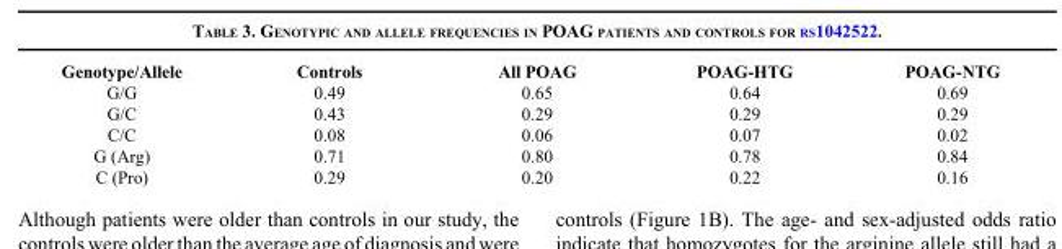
<table><thead><tr><td>Genotype/Allele</td><td>Controls</td><td>All POAG</td><td>POAG-HTG</td><td>POAG-NTG</td></tr></thead><tbody><tr><td>G/G</td><td>0.49</td><td>0.65</td><td>0.64</td><td>0.69</td></tr><tr><td>G/C</td><td>0.43</td><td>0.29</td><td>0.29</td><td>0.29</td></tr><tr><td>C/C</td><td>0.08</td><td>0.06</td><td>0.07</td><td>0.02</td></tr><tr><td>G (Arg)</td><td>0.71</td><td>0.80</td><td>0.78</td><td>0.84</td></tr><tr><td>C (Pro)</td><td>0.29</td><td>0.20</td><td>0.22</td><td>0.16</td></tr></tbody></table>